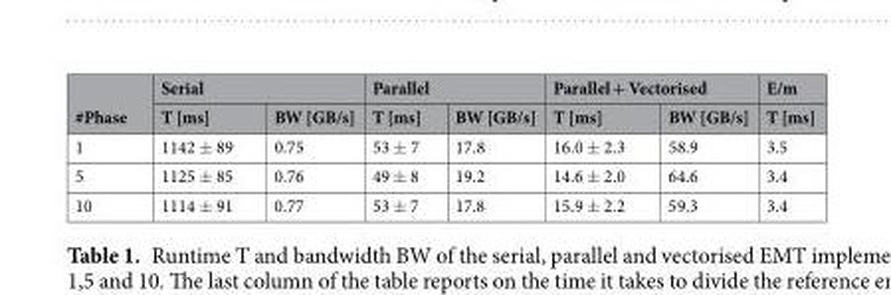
<table><thead><tr><td rowspan="2">#Phase</td><td colspan="2">Serial</td><td colspan="2">Parallel</td><td colspan="2">Parallel + Vectorised</td><td rowspan="2">E/m T [ms]</td></tr><tr><td>T [ms]</td><td>BW [GB/s]</td><td>T [ms]</td><td>BW [GB/s]</td><td>T [ms]</td><td>BW [GB/s]</td></tr></thead><tbody><tr><td>1</td><td>1142 ± 89</td><td>0.75</td><td>53 ± 7</td><td>17.8</td><td>16.0 ± 2.3</td><td>58.9</td><td>3.5</td></tr><tr><td>5</td><td>1125 ± 85</td><td>0.76</td><td>49 ± 8</td><td>19.2</td><td>14.6 ± 2.0</td><td>64.6</td><td>3.4</td></tr><tr><td>10</td><td>1114 ± 91</td><td>0.77</td><td>53 ± 7</td><td>17.8</td><td>15.9 ± 2.2</td><td>59.3</td><td>3.4</td></tr></tbody></table>